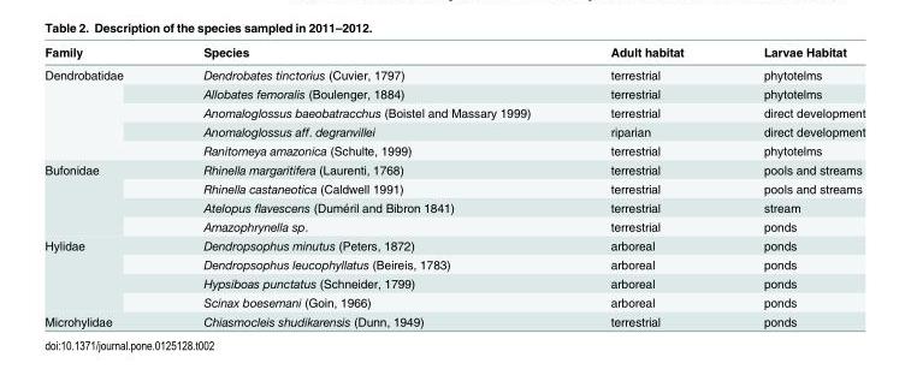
<table><thead><tr><td>Family</td><td>Species</td><td>Adult habitat</td><td>Larvae Habitat</td></tr></thead><tbody><tr><td rowspan="5">Dendrobatidae</td><td>Dendrobates tinctorius (Cuvier, 1797)</td><td>terrestrial</td><td>phytotelms</td></tr><tr><td>Allobates femoralis (Boulenger, 1884)</td><td>terrestrial</td><td>phytotelms</td></tr><tr><td>Anomaloglossus baeobatracchus (Boistel and Massary 1999)</td><td>terrestrial</td><td>direct development</td></tr><tr><td>Anomaloglossus aff. degranvillei</td><td>riparian</td><td>direct development</td></tr><tr><td>Ranitomeya amazonica (Schulte, 1999)</td><td>terrestrial</td><td>phytotelms</td></tr><tr><td rowspan="4">Bufonidae</td><td>Rhinella margaritifera (Laurenti, 1768)</td><td>terrestrial</td><td>pools and streams</td></tr><tr><td>Rhinella castaneotica (Caldwell 1991)</td><td>terrestrial</td><td>pools and streams</td></tr><tr><td>Atelopus flavescens (Duméril and Bibron 1841)</td><td>terrestrial</td><td>stream</td></tr><tr><td>Amazophrynella sp.</td><td>terrestrial</td><td>ponds</td></tr><tr><td rowspan="4">Hylidae</td><td>Dendropsophus minutus (Peters, 1872)</td><td>arboreal</td><td>ponds</td></tr><tr><td>Dendropsophus leucophyllatus (Beireis, 1783)</td><td>arboreal</td><td>ponds</td></tr><tr><td>Hypsiboas punctatus (Schneider, 1799)</td><td>arboreal</td><td>ponds</td></tr><tr><td>Scinax boesemani (Goin, 1966)</td><td>arboreal</td><td>ponds</td></tr><tr><td>Microhylidae</td><td>Chiasmocleis shudikarensis (Dunn, 1949)</td><td>terrestrial</td><td>ponds</td></tr></tbody></table>